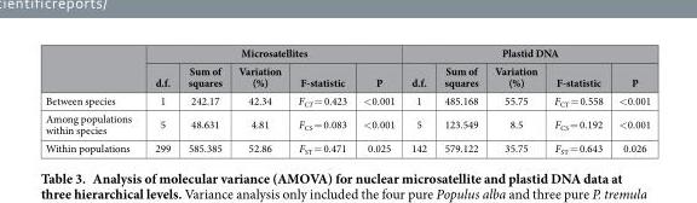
<table><thead><tr><td rowspan="2"></td><td colspan="5">Microsatellites</td><td colspan="5">Plastid DNA</td></tr><tr><td>d.f.</td><td>Sum of squares</td><td>Variation (%)</td><td>F-statistic</td><td>P</td><td>d.f.</td><td>Sum of squares</td><td>Variation (%)</td><td>F-statistic</td><td>P</td></tr></thead><tbody><tr><td>Between species</td><td>1</td><td>242.17</td><td>42.34</td><td>F<sub>CT</sub> = 0.423</td><td>&lt; 0.001</td><td>1</td><td>485.168</td><td>55.75</td><td>F<sub>CT</sub> = 0.558</td><td>&lt; 0.001</td></tr><tr><td>Among populations within species</td><td>5</td><td>48.631</td><td>4.81</td><td>F<sub>CS</sub> = 0.083</td><td>&lt; 0.001</td><td>5</td><td>123.549</td><td>8.5</td><td>F<sub>CS</sub> = 0.192</td><td>&lt; 0.001</td></tr><tr><td>Within populations</td><td>299</td><td>585.385</td><td>52.86</td><td>F<sub>ST</sub> = 0.471</td><td>0.025</td><td>142</td><td>579.122</td><td>35.75</td><td>F<sub>ST</sub> = 0.643</td><td>0.026</td></tr></tbody></table>